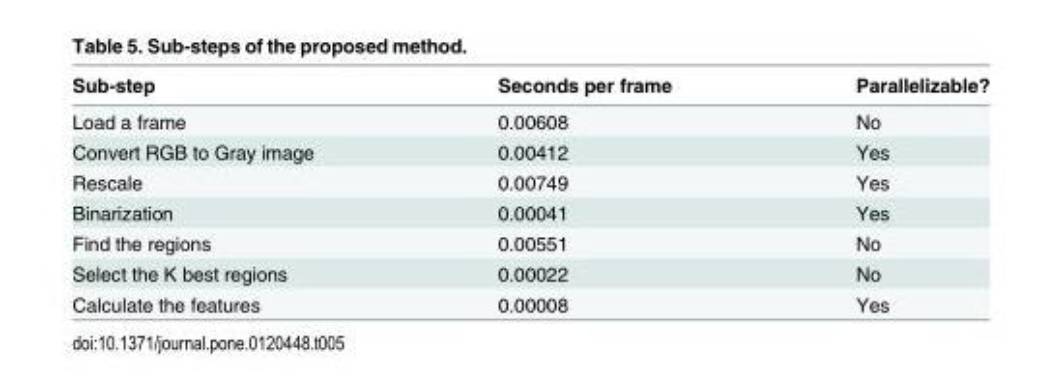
<table><thead><tr><td>Sub-step</td><td>Seconds per frame</td><td>Parallelizable?</td></tr></thead><tbody><tr><td>Load a frame</td><td>0.00608</td><td>No</td></tr><tr><td>Convert RGB to Gray image</td><td>0.00412</td><td>Yes</td></tr><tr><td>Rescale</td><td>0.00749</td><td>Yes</td></tr><tr><td>Binarization</td><td>0.00041</td><td>Yes</td></tr><tr><td>Find the regions</td><td>0.00551</td><td>No</td></tr><tr><td>Select the K best regions</td><td>0.00022</td><td>No</td></tr><tr><td>Calculate the features</td><td>0.00008</td><td>Yes</td></tr></tbody></table>